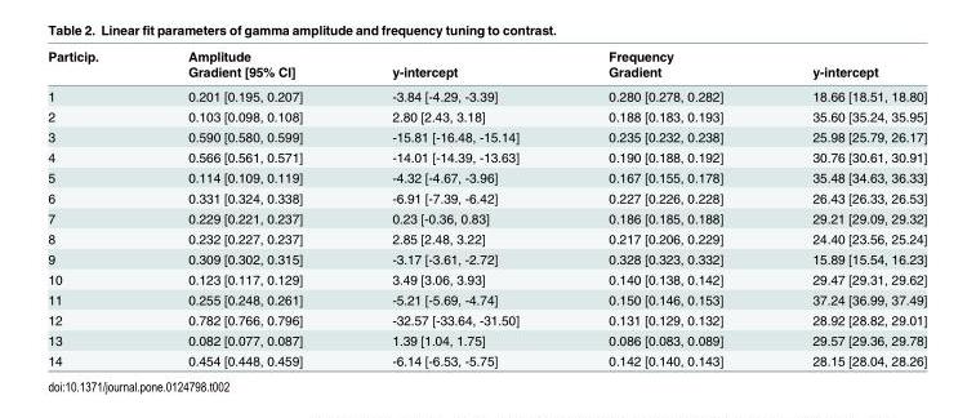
<table><thead><tr><td rowspan="2">Particip.</td><td rowspan="2">Amplitude Gradient [95% CI]</td><td rowspan="2">y-intercept</td><td rowspan="2">Frequency Gradient</td><td rowspan="2">y-intercept</td></tr><tr></tr></thead><tbody><tr><td>1</td><td>0.201 [0.195, 0.207]</td><td>-3.84 [-4.29, -3.39]</td><td>0.280 [0.278, 0.282]</td><td>18.66 [18.51, 18.80]</td></tr><tr><td>2</td><td>0.103 [0.098, 0.108]</td><td>2.80 [2.43, 3.18]</td><td>0.188 [0.183, 0.193]</td><td>35.60 [35.24, 35.95]</td></tr><tr><td>3</td><td>0.590 [0.580, 0.599]</td><td>-15.81 [-16.48, -15.14]</td><td>0.235 [0.232, 0.238]</td><td>25.98 [25.79, 26.17]</td></tr><tr><td>4</td><td>0.566 [0.561, 0.571]</td><td>-14.01 [-14.39, -13.63]</td><td>0.190 [0.188, 0.192]</td><td>30.76 [30.61, 30.91]</td></tr><tr><td>5</td><td>0.114 [0.109, 0.119]</td><td>-4.32 [-4.67, -3.96]</td><td>0.167 [0.155, 0.178]</td><td>35.48 [34.63, 36.33]</td></tr><tr><td>6</td><td>0.331 [0.324, 0.338]</td><td>-6.91 [-7.39, -6.42]</td><td>0.227 [0.226, 0.228]</td><td>26.43 [26.33, 26.53]</td></tr><tr><td>7</td><td>0.229 [0.221, 0.237]</td><td>0.23 [-0.36, 0.83]</td><td>0.186 [0.185, 0.188]</td><td>29.21 [29.09, 29.32]</td></tr><tr><td>8</td><td>0.232 [0.227, 0.237]</td><td>2.85 [2.48, 3.22]</td><td>0.217 [0.206, 0.229]</td><td>24.40 [23.56, 25.24]</td></tr><tr><td>9</td><td>0.309 [0.302, 0.315]</td><td>-3.17 [-3.61, -2.72]</td><td>0.328 [0.323, 0.332]</td><td>15.89 [15.54, 16.23]</td></tr><tr><td>10</td><td>0.123 [0.117, 0.129]</td><td>3.49 [3.06, 3.93]</td><td>0.140 [0.138, 0.142]</td><td>29.47 [29.31, 29.62]</td></tr><tr><td>11</td><td>0.255 [0.248, 0.261]</td><td>-5.21 [-5.69, -4.74]</td><td>0.150 [0.146, 0.153]</td><td>37.24 [36.99, 37.49]</td></tr><tr><td>12</td><td>0.782 [0.766, 0.796]</td><td>-32.57 [-33.64, -31.50]</td><td>0.131 [0.129, 0.132]</td><td>28.92 [28.82, 29.01]</td></tr><tr><td>13</td><td>0.082 [0.077, 0.087]</td><td>1.39 [1.04, 1.75]</td><td>0.086 [0.083, 0.089]</td><td>29.57 [29.36, 29.78]</td></tr><tr><td>14</td><td>0.454 [0.448, 0.459]</td><td>-6.14 [-6.53, -5.75]</td><td>0.142 [0.140, 0.143]</td><td>28.15 [28.04, 28.26]</td></tr></tbody></table>